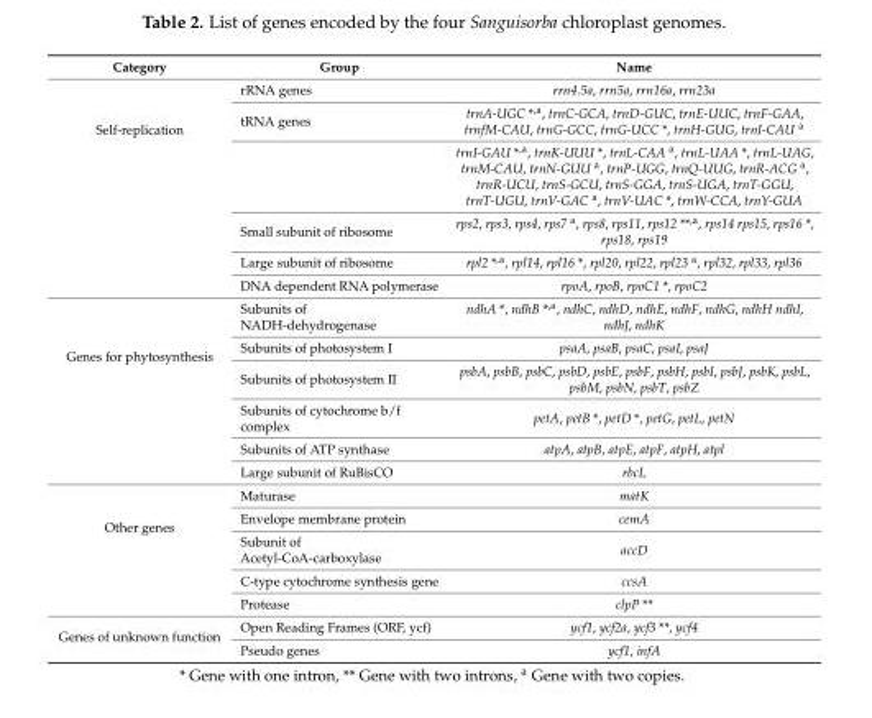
<table><thead><tr><td>Category</td><td>Group</td><td>Name</td></tr></thead><tbody><tr><td rowspan="6">Self-replication</td><td>rRNA genes</td><td>rrn4.5a, rrn5a, rrn16a, rrn23a</td></tr><tr><td>tRNA genes</td><td>trnA-UGC *<sup>,a</sup>, trnC-GCA, trnD-GUC, trnE-UUC, trnF-GAA, trnfM-CAU, trnG-GCC, trnG-UCC *, trnH-GUG, trnI-CAU <sup>a</sup></td></tr><tr><td></td><td>trnI-GAU *<sup>,a</sup>, trnK-UUU *, trnL-CAA <sup>a</sup>, trnL-UAA *, trnL-UAG, trnM-CAU, trnN-GUU <sup>a</sup>, trnP-UGG, trnQ-UUG, trnR-ACG <sup>a</sup>, trnR-UCU, trnS-GCU, trnS-GGA, trnS-UGA, trnT-GGU, trnT-UGU, trnV-GAC <sup>a</sup>, trnV-UAC *, trnW-CCA, trnY-GUA</td></tr><tr><td>Small subunit of ribosome</td><td>rps2, rps3, rps4, rps7 <sup>a</sup>, rps8, rps11, rps12 **<sup>,a</sup>, rps14 rps15, rps16 *, rps18, rps19</td></tr><tr><td>Large subunit of ribosome</td><td>rpl2 *<sup>,a</sup>, rpl14, rpl16 *, rpl20, rpl22, rpl23 <sup>a</sup>, rpl32, rpl33, rpl36</td></tr><tr><td>DNA dependent RNA polymerase</td><td>rpoA, rpoB, rpoC1 *, rpoC2</td></tr><tr><td rowspan="6">Genes for phytosynthesis</td><td>Subunits of NADH-dehydrogenase</td><td>ndhA *, ndhB *<sup>,a</sup>, ndhC, ndhD, ndhE, ndhF, ndhG, ndhH ndhI, ndhJ, ndhK</td></tr><tr><td>Subunits of photosystem I</td><td>psaA, psaB, psaC, psaI, psaJ</td></tr><tr><td>Subunits of photosystem II</td><td>psbA, psbB, psbC, psbD, psbE, psbF, psbH, psbI, psbJ, psbK, psbL, psbM, psbN, psbT, psbZ</td></tr><tr><td>Subunits of cytochrome b/f complex</td><td>petA, petB *, petD *, petG, petL, petN</td></tr><tr><td>Subunits of ATP synthase</td><td>atpA, atpB, atpE, atpF, atpH, atpl</td></tr><tr><td>Large subunit of RuBisCO</td><td>rbcL</td></tr><tr><td rowspan="5">Other genes</td><td>Maturase</td><td>matK</td></tr><tr><td>Envelope membrane protein</td><td>cemA</td></tr><tr><td>Subunit of Acetyl-CoA-carboxylase</td><td>accD</td></tr><tr><td>C-type cytochrome synthesis gene</td><td>ccsA</td></tr><tr><td>Protease</td><td>clpP **</td></tr><tr><td rowspan="2">Genes of unknown function</td><td>Open Reading Frames (ORF, ycf)</td><td>ycf1, ycf2a, ycf3 **, ycf4</td></tr><tr><td>Pseudo genes</td><td>ycf1, infA</td></tr></tbody></table>